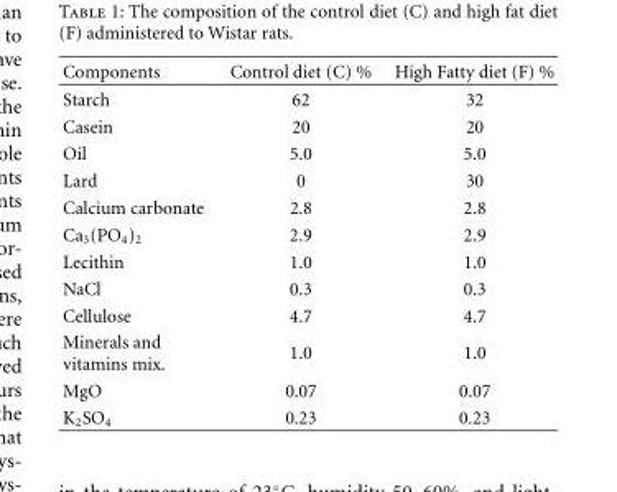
<table><thead><tr><td>Components</td><td>Control diet (C) %</td><td>High Fatty diet (F) %</td></tr></thead><tbody><tr><td>Starch</td><td>62</td><td>32</td></tr><tr><td>Casein</td><td>20</td><td>20</td></tr><tr><td>Oil</td><td>5.0</td><td>5.0</td></tr><tr><td>Lard</td><td>0</td><td>30</td></tr><tr><td>Calcium carbonate</td><td>2.8</td><td>2.8</td></tr><tr><td>Ca<sub>3</sub>(PO<sub>4</sub>)<sub>2</sub></td><td>2.9</td><td>2.9</td></tr><tr><td>Lecithin</td><td>1.0</td><td>1.0</td></tr><tr><td>NaCl</td><td>0.3</td><td>0.3</td></tr><tr><td>Cellulose</td><td>4.7</td><td>4.7</td></tr><tr><td>Minerals and vitamins mix.</td><td>1.0</td><td>1.0</td></tr><tr><td>MgO</td><td>0.07</td><td>0.07</td></tr><tr><td>K<sub>2</sub>SO<sub>4</sub></td><td>0.23</td><td>0.23</td></tr></tbody></table>